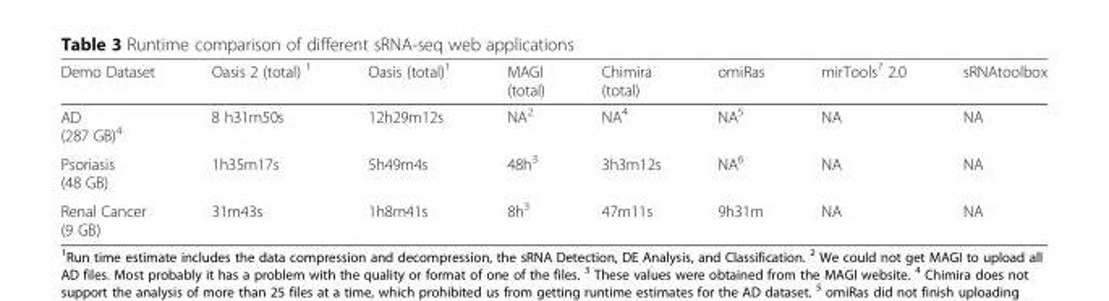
<table><thead><tr><td>Demo Dataset</td><td>Oasis 2 (total) <sup>1</sup></td><td>Oasis (total)<sup>1</sup></td><td>MAGI (total)</td><td>Chimira (total)</td><td>omiRas</td><td>mirTools<sup>7</sup> 2.0</td><td>sRNAtoolbox</td></tr></thead><tbody><tr><td>AD (287 GB)<sup>4</sup></td><td>8 h31m50s</td><td>12h29m12s</td><td>NA<sup>2</sup></td><td>NA<sup>4</sup></td><td>NA<sup>5</sup></td><td>NA</td><td>NA</td></tr><tr><td>Psoriasis (48 GB)</td><td>1h35m17s</td><td>5h49m4s</td><td>48h<sup>3</sup></td><td>3h3m12s</td><td>NA<sup>6</sup></td><td>NA</td><td>NA</td></tr><tr><td>Renal Cancer (9 GB)</td><td>31m43s</td><td>1h8m41s</td><td>8h<sup>3</sup></td><td>47m11s</td><td>9h31m</td><td>NA</td><td>NA</td></tr></tbody></table>